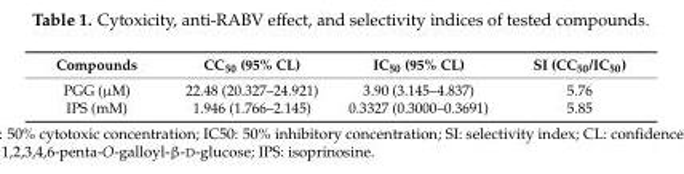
<table><thead><tr><td>Compounds</td><td>CC<sub>50</sub> (95% CL)</td><td>IC<sub>50</sub> (95% CL)</td><td>SI (CC<sub>50</sub>/IC<sub>50</sub>)</td></tr></thead><tbody><tr><td>PGG (µM)</td><td>22.48 (20.327–24.921)</td><td>3.90 (3.145–4.837)</td><td>5.76</td></tr><tr><td>IPS (mM)</td><td>1.946 (1.766–2.145)</td><td>0.3327 (0.3000–0.3691)</td><td>5.85</td></tr></tbody></table>